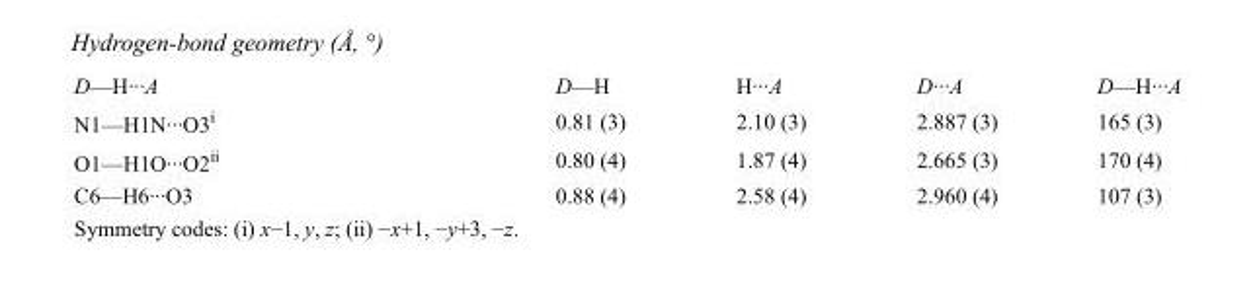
<table><tbody><tr><td>D—H···A</td><td>D—H</td><td>H···A</td><td>D···A</td><td>D—H···A</td></tr><tr><td>N1—H1N···O3<sup>i</sup></td><td>0.81 (3)</td><td>2.10 (3)</td><td>2.887 (3)</td><td>165 (3)</td></tr><tr><td>O1—H1O···O2<sup>ii</sup></td><td>0.80 (4)</td><td>1.87 (4)</td><td>2.665 (3)</td><td>170 (4)</td></tr><tr><td>C6—H6···O3</td><td>0.88 (4)</td><td>2.58 (4)</td><td>2.960 (4)</td><td>107 (3)</td></tr></tbody></table>